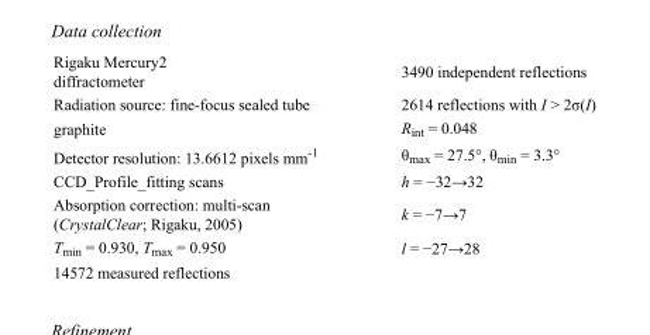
<table><tbody><tr><td>Rigaku Mercury2 diffractometer</td><td>3490 independent reflections</td></tr><tr><td>Radiation source: fine-focus sealed tube</td><td>2614 reflections with I &gt; 2σ(I)</td></tr><tr><td>graphite</td><td>R<sub>int</sub> = 0.048</td></tr><tr><td>Detector resolution: 13.6612 pixels mm<sup>-1</sup></td><td>θ<sub>max</sub> = 27.5°, θ<sub>min</sub> = 3.3°</td></tr><tr><td>CCD_Profile_fitting scans</td><td>h = −32→32</td></tr><tr><td>Absorption correction: multi-scan (CrystalClear; Rigaku, 2005)</td><td>k = −7→7</td></tr><tr><td>T<sub>min</sub> = 0.930, T<sub>max</sub> = 0.950</td><td>l = −27→28</td></tr><tr><td>14572 measured reflections</td><td></td></tr></tbody></table>